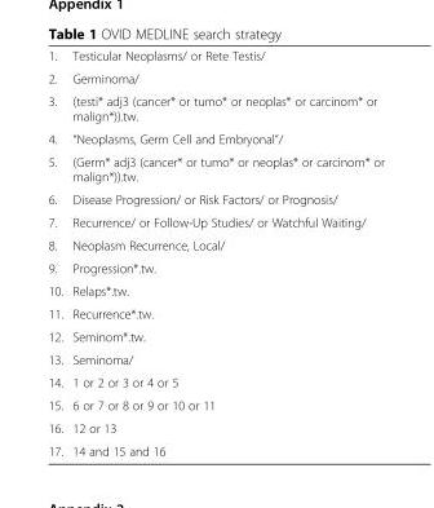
<table><tbody><tr><td>1.</td><td>Testicular Neoplasms/ or Rete Testis/</td></tr><tr><td>2.</td><td>Germinoma/</td></tr><tr><td>3.</td><td>(testi* adj3 (cancer* or tumo* or neoplas* or carcinom* or malign*)).tw.</td></tr><tr><td>4.</td><td>“Neoplasms, Germ Cell and Embryonal”/</td></tr><tr><td>5.</td><td>(Germ* adj3 (cancer* or tumo* or neoplas* or carcinom* or malign*)).tw.</td></tr><tr><td>6.</td><td>Disease Progression/ or Risk Factors/ or Prognosis/</td></tr><tr><td>7.</td><td>Recurrence/ or Follow-Up Studies/ or Watchful Waiting/</td></tr><tr><td>8.</td><td>Neoplasm Recurrence, Local/</td></tr><tr><td>9.</td><td>Progression*.tw.</td></tr><tr><td>10.</td><td>Relaps*.tw.</td></tr><tr><td>11.</td><td>Recurrence*.tw.</td></tr><tr><td>12.</td><td>Seminom*.tw.</td></tr><tr><td>13.</td><td>Seminoma/</td></tr><tr><td>14.</td><td>1 or 2 or 3 or 4 or 5</td></tr><tr><td>15.</td><td>6 or 7 or 8 or 9 or 10 or 11</td></tr><tr><td>16.</td><td>12 or 13</td></tr><tr><td>17.</td><td>14 and 15 and 16</td></tr></tbody></table>